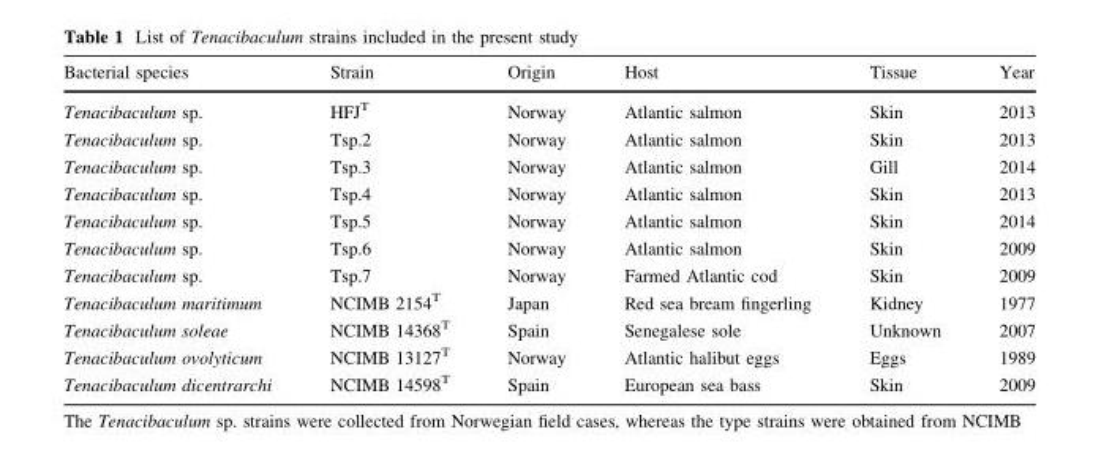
<table><thead><tr><td>Bacterial species</td><td>Strain</td><td>Origin</td><td>Host</td><td>Tissue</td><td>Year</td></tr></thead><tbody><tr><td>Tenacibaculum sp.</td><td>HFJ<sup>T</sup></td><td>Norway</td><td>Atlantic salmon</td><td>Skin</td><td>2013</td></tr><tr><td>Tenacibaculum sp.</td><td>Tsp.2</td><td>Norway</td><td>Atlantic salmon</td><td>Skin</td><td>2013</td></tr><tr><td>Tenacibaculum sp.</td><td>Tsp.3</td><td>Norway</td><td>Atlantic salmon</td><td>Gill</td><td>2014</td></tr><tr><td>Tenacibaculum sp.</td><td>Tsp.4</td><td>Norway</td><td>Atlantic salmon</td><td>Skin</td><td>2013</td></tr><tr><td>Tenacibaculum sp.</td><td>Tsp.5</td><td>Norway</td><td>Atlantic salmon</td><td>Skin</td><td>2014</td></tr><tr><td>Tenacibaculum sp.</td><td>Tsp.6</td><td>Norway</td><td>Atlantic salmon</td><td>Skin</td><td>2009</td></tr><tr><td>Tenacibaculum sp.</td><td>Tsp.7</td><td>Norway</td><td>Farmed Atlantic cod</td><td>Skin</td><td>2009</td></tr><tr><td>Tenacibaculum maritimum</td><td>NCIMB 2154<sup>T</sup></td><td>Japan</td><td>Red sea bream fingerling</td><td>Kidney</td><td>1977</td></tr><tr><td>Tenacibaculum soleae</td><td>NCIMB 14368<sup>T</sup></td><td>Spain</td><td>Senegalese sole</td><td>Unknown</td><td>2007</td></tr><tr><td>Tenacibaculum ovolyticum</td><td>NCIMB 13127<sup>T</sup></td><td>Norway</td><td>Atlantic halibut eggs</td><td>Eggs</td><td>1989</td></tr><tr><td>Tenacibaculum dicentrarchi</td><td>NCIMB 14598<sup>T</sup></td><td>Spain</td><td>European sea bass</td><td>Skin</td><td>2009</td></tr></tbody></table>